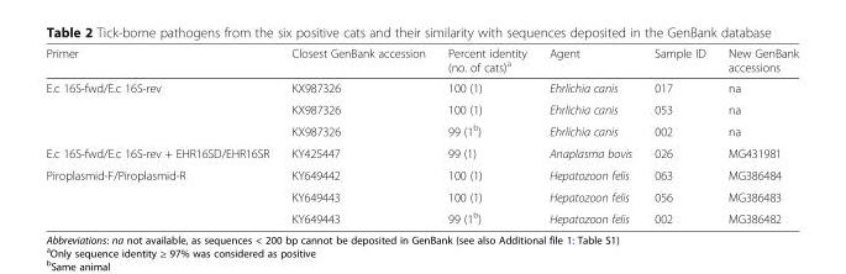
<table><thead><tr><td>Primer</td><td>Closest GenBank accession</td><td>Percent identity (no. of cats)<sup>a</sup></td><td>Agent</td><td>Sample ID</td><td>New GenBank accessions</td></tr></thead><tbody><tr><td rowspan="3">E.c 16S-fwd/E.c 16S-rev</td><td>KX987326</td><td>100 (1)</td><td>Ehrlichia canis</td><td>017</td><td>na</td></tr><tr><td>KX987326</td><td>100 (1)</td><td>Ehrlichia canis</td><td>053</td><td>na</td></tr><tr><td>KX987326</td><td>99 (1<sup>b</sup>)</td><td>Ehrlichia canis</td><td>002</td><td>na</td></tr><tr><td>E.c 16S-fwd/E.c 16S-rev + EHR16SD/EHR16SR</td><td>KY425447</td><td>99 (1)</td><td>Anaplasma bovis</td><td>026</td><td>MG431981</td></tr><tr><td rowspan="3">Piroplasmid-F/Piroplasmid-R</td><td>KY649442</td><td>100 (1)</td><td>Hepatozoon felis</td><td>063</td><td>MG386484</td></tr><tr><td>KY649443</td><td>100 (1)</td><td>Hepatozoon felis</td><td>056</td><td>MG386483</td></tr><tr><td>KY649443</td><td>99 (1<sup>b</sup>)</td><td>Hepatozoon felis</td><td>002</td><td>MG386482</td></tr></tbody></table>